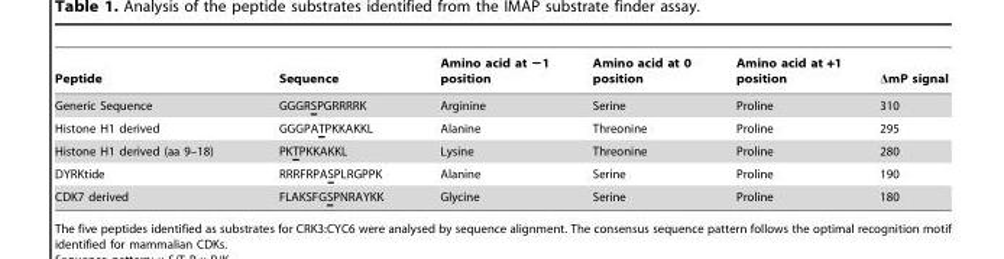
<table><thead><tr><td>Peptide</td><td>Sequence</td><td>Amino acid at −1 position</td><td>Amino acid at 0 position</td><td>Amino acid at +1 position</td><td>ΔmP signal</td></tr></thead><tbody><tr><td>Generic Sequence</td><td>GGGRSPGRRRRK</td><td>Arginine</td><td>Serine</td><td>Proline</td><td>310</td></tr><tr><td>Histone H1 derived</td><td>GGGPATPKKAKKL</td><td>Alanine</td><td>Threonine</td><td>Proline</td><td>295</td></tr><tr><td>Histone H1 derived (aa 9–18)</td><td>PKTPKKAKKL</td><td>Lysine</td><td>Threonine</td><td>Proline</td><td>280</td></tr><tr><td>DYRKtide</td><td>RRRFRPASPLRGPPK</td><td>Alanine</td><td>Serine</td><td>Proline</td><td>190</td></tr><tr><td>CDK7 derived</td><td>FLAKSFGSPNRAYKK</td><td>Glycine</td><td>Serine</td><td>Proline</td><td>180</td></tr></tbody></table>